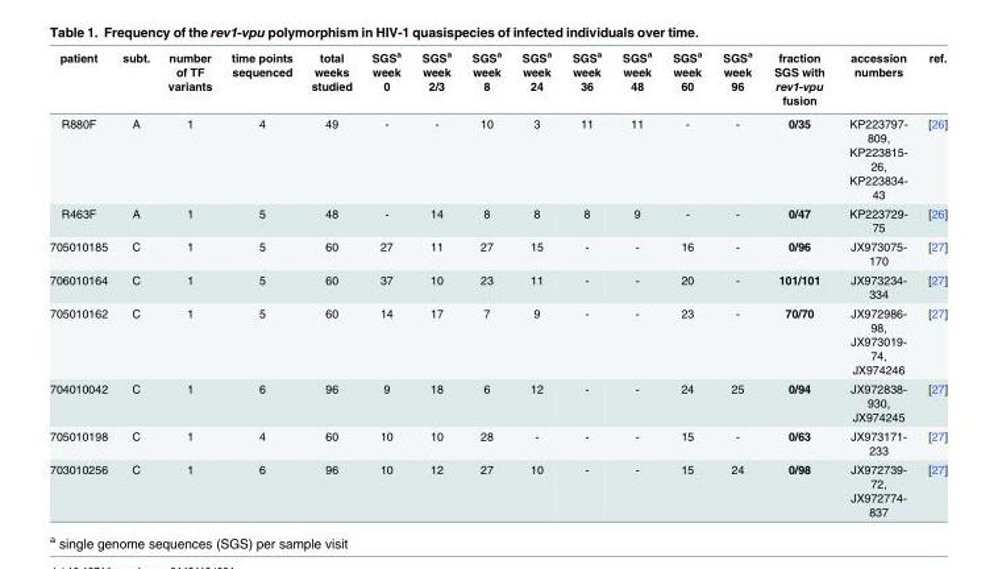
<table><thead><tr><td>patient</td><td>subt.</td><td>number of TF variants</td><td>time points sequenced</td><td>total weeks studied</td><td>SGS<sup>a</sup> week 0</td><td>SGS<sup>a</sup> week 2/3</td><td>SGS<sup>a</sup> week 8</td><td>SGS<sup>a</sup> week 24</td><td>SGS<sup>a</sup> week 36</td><td>SGS<sup>a</sup> week 48</td><td>SGS<sup>a</sup> week 60</td><td>SGS<sup>a</sup> week 96</td><td>fraction SGS with rev1-vpu fusion</td><td>accession numbers</td><td>ref.</td></tr></thead><tbody><tr><td>R880F</td><td>A</td><td>1</td><td>4</td><td>49</td><td>-</td><td>-</td><td>10</td><td>3</td><td>11</td><td>11</td><td>-</td><td>-</td><td>0/35</td><td>KP223797- 809, KP223815- 26, KP223834- 43</td><td>[26]</td></tr><tr><td>R463F</td><td>A</td><td>1</td><td>5</td><td>48</td><td>-</td><td>14</td><td>8</td><td>8</td><td>8</td><td>9</td><td>-</td><td>-</td><td>0/47</td><td>KP223729- 75</td><td>[26]</td></tr><tr><td>705010185</td><td>C</td><td>1</td><td>5</td><td>60</td><td>27</td><td>11</td><td>27</td><td>15</td><td>-</td><td>-</td><td>16</td><td>-</td><td>0/96</td><td>JX973075- 170</td><td>[27]</td></tr><tr><td>706010164</td><td>C</td><td>1</td><td>5</td><td>60</td><td>37</td><td>10</td><td>23</td><td>11</td><td>-</td><td>-</td><td>20</td><td>-</td><td>101/101</td><td>JX973234- 334</td><td>[27]</td></tr><tr><td>705010162</td><td>C</td><td>1</td><td>5</td><td>60</td><td>14</td><td>17</td><td>7</td><td>9</td><td>-</td><td>-</td><td>23</td><td>-</td><td>70/70</td><td>JX972986- 98, JX973019- 74, JX974246</td><td>[27]</td></tr><tr><td>704010042</td><td>C</td><td>1</td><td>6</td><td>96</td><td>9</td><td>18</td><td>6</td><td>12</td><td>-</td><td>-</td><td>24</td><td>25</td><td>0/94</td><td>JX972838- 930, JX974245</td><td>[27]</td></tr><tr><td>705010198</td><td>C</td><td>1</td><td>4</td><td>60</td><td>10</td><td>10</td><td>28</td><td>-</td><td>-</td><td>-</td><td>15</td><td>-</td><td>0/63</td><td>JX973171- 233</td><td>[27]</td></tr><tr><td>703010256</td><td>C</td><td>1</td><td>6</td><td>96</td><td>10</td><td>12</td><td>27</td><td>10</td><td>-</td><td>-</td><td>15</td><td>24</td><td>0/98</td><td>JX972739- 72, JX972774- 837</td><td>[27]</td></tr></tbody></table>